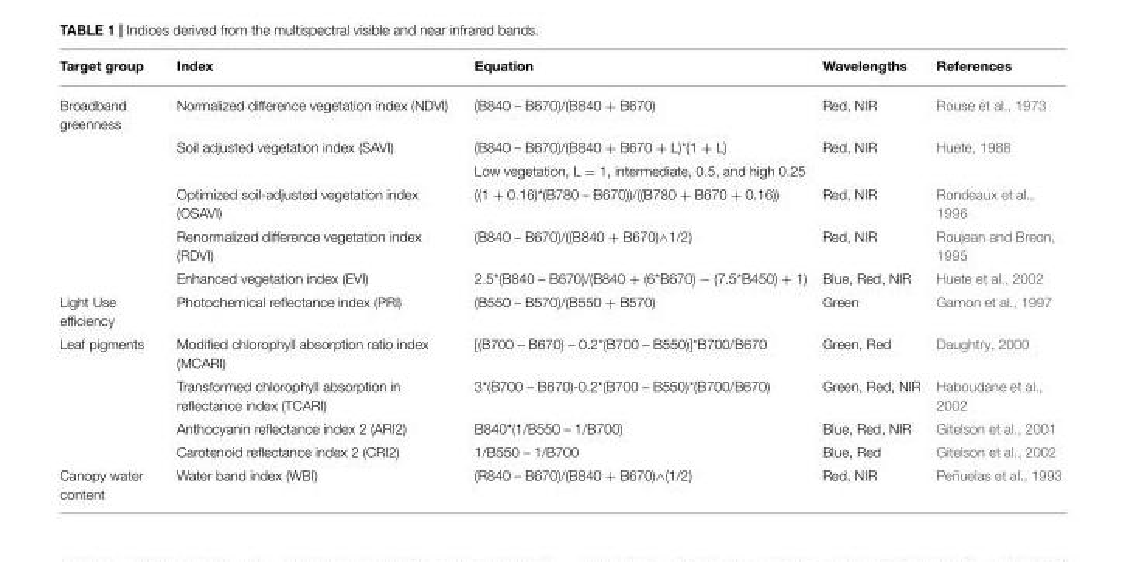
<table><thead><tr><td>Target group</td><td>Index</td><td>Equation</td><td>Wavelengths</td><td>References</td></tr></thead><tbody><tr><td rowspan="6">Broadband greenness</td><td>Normalized difference vegetation index (NDVI)</td><td>(B840 – B670)/(B840 + B670)</td><td>Red, NIR</td><td>Rouse et al., 1973</td></tr><tr><td>Soil adjusted vegetation index (SAVI)</td><td>(B840 – B670)/(B840 + B670 + L)*(1 + L)</td><td>Red, NIR</td><td>Huete, 1988</td></tr><tr><td></td><td>Low vegetation, L = 1, intermediate, 0.5, and high 0.25</td><td></td><td></td></tr><tr><td>Optimized soil-adjusted vegetation index (OSAVI)</td><td>((1 + 0.16)*(B780 – B670))/((B780 + B670 + 0.16))</td><td>Red, NIR</td><td>Rondeaux et al., 1996</td></tr><tr><td>Renormalized difference vegetation index (RDVI)</td><td>(B840 – B670)/((B840 + B670)∧1/2)</td><td>Red, NIR</td><td>Roujean and Breon, 1995</td></tr><tr><td>Enhanced vegetation index (EVI)</td><td>2.5*(B840 – B670)/(B840 + (6*B670) − (7.5*B450) + 1)</td><td>Blue, Red, NIR</td><td>Huete et al., 2002</td></tr><tr><td>Light Use efficiency</td><td>Photochemical reflectance index (PRI)</td><td>(B550 – B570)/(B550 + B570)</td><td>Green</td><td>Gamon et al., 1997</td></tr><tr><td rowspan="4">Leaf pigments</td><td>Modified chlorophyll absorption ratio index (MCARI)</td><td>[(B700 – B670) – 0.2*(B700 – B550)]*B700/B670</td><td>Green, Red</td><td>Daughtry, 2000</td></tr><tr><td>Transformed chlorophyll absorption in reflectance index (TCARI)</td><td>3*(B700 – B670)-0.2*(B700 – B550)*(B700/B670)</td><td>Green, Red, NIR</td><td>Haboudane et al., 2002</td></tr><tr><td>Anthocyanin reflectance index 2 (ARI2)</td><td>B840*(1/B550 – 1/B700)</td><td>Blue, Red, NIR</td><td>Gitelson et al., 2001</td></tr><tr><td>Carotenoid reflectance index 2 (CRI2)</td><td>1/B550 – 1/B700</td><td>Blue, Red</td><td>Gitelson et al., 2002</td></tr><tr><td>Canopy water content</td><td>Water band index (WBI)</td><td>(R840 – B670)/(B840 + B670)∧(1/2)</td><td>Red, NIR</td><td>Peñuelas et al., 1993</td></tr></tbody></table>